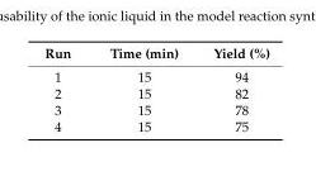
<table><thead><tr><td>Run</td><td>Time (min)</td><td>Yield (%)</td></tr></thead><tbody><tr><td>1</td><td>15</td><td>94</td></tr><tr><td>2</td><td>15</td><td>82</td></tr><tr><td>3</td><td>15</td><td>78</td></tr><tr><td>4</td><td>15</td><td>75</td></tr></tbody></table>